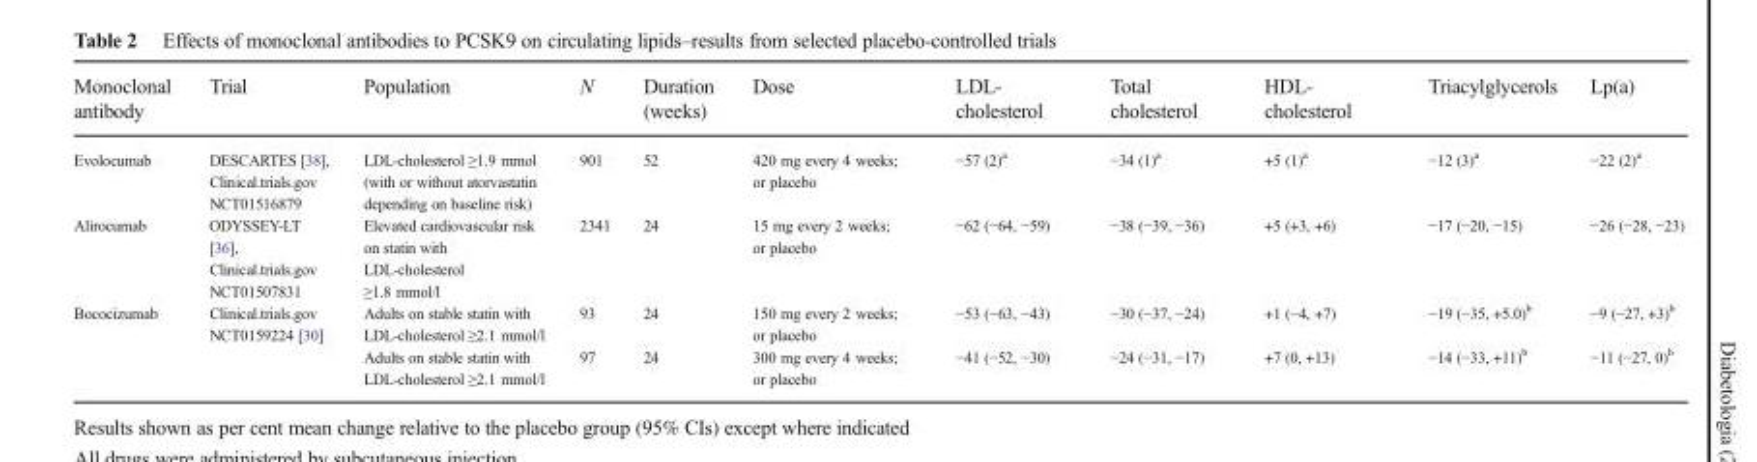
<table><thead><tr><td>Monoclonal antibody</td><td>Trial</td><td>Population</td><td>N</td><td>Duration (weeks)</td><td>Dose</td><td>LDL- cholesterol</td><td>Total cholesterol</td><td>HDL- cholesterol</td><td>Triacylglycerols</td><td>Lp(a)</td></tr></thead><tbody><tr><td>Evolocumab</td><td>DESCARTES [38], Clinical.trials.gov NCT01516879</td><td>LDL-cholesterol ≥1.9 mmol (with or without atorvastatin depending on baseline risk)</td><td>901</td><td>52</td><td>420 mg every 4 weeks; or placebo</td><td>−57 (2)<sup>a</sup></td><td>−34 (1)<sup>a</sup></td><td>+5 (1)<sup>a</sup></td><td>−12 (3)<sup>a</sup></td><td>−22 (2)<sup>a</sup></td></tr><tr><td>Alirocumab</td><td>ODYSSEY-LT [36], Clinical.trials.gov NCT01507831</td><td>Elevated cardiovascular risk on statin with LDL-cholesterol ≥1.8 mmol/l</td><td>2341</td><td>24</td><td>15 mg every 2 weeks; or placebo</td><td>−62 (−64, −59)</td><td>−38 (−39, −36)</td><td>+5 (+3, +6)</td><td>−17 (−20, −15)</td><td>−26 (−28, −23)</td></tr><tr><td rowspan="2">Bococizumab</td><td rowspan="2">Clinical.trials.gov NCT0159224 [30]</td><td>Adults on stable statin with LDL-cholesterol ≥2.1 mmol/l</td><td>93</td><td>24</td><td>150 mg every 2 weeks; or placebo</td><td>−53 (−63, −43)</td><td>−30 (−37, −24)</td><td>+1 (−4, +7)</td><td>−19 (−35, +5.0)<sup>b</sup></td><td>−9 (−27, +3)<sup>b</sup></td></tr><tr><td>Adults on stable statin with LDL-cholesterol ≥2.1 mmol/l</td><td>97</td><td>24</td><td>300 mg every 4 weeks; or placebo</td><td>−41 (−52, −30)</td><td>−24 (−31, −17)</td><td>+7 (0, +13)</td><td>−14 (−33, +11)<sup>b</sup></td><td>−11 (−27, 0)<sup>b</sup></td></tr></tbody></table>